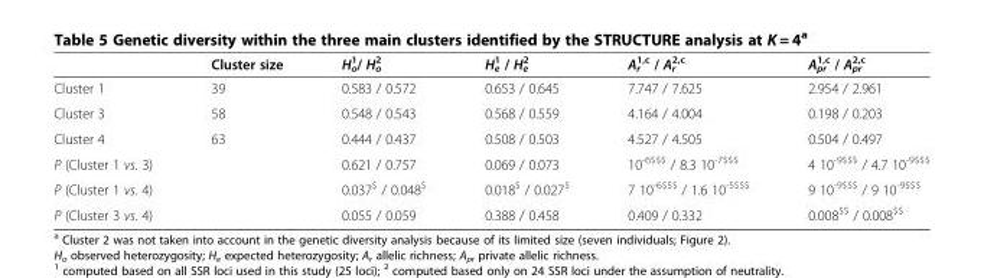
<table><thead><tr><td></td><td>Cluster size</td><td>H<sub>o</sub> <sup>1</sup>/ H<sub>o</sub> <sup>2</sup></td><td>H<sub>e</sub> <sup>1</sup> / H<sub>e</sub> <sup>2</sup></td><td>A<sub>r</sub> <sup>1,c</sup> / A<sub>r</sub> <sup>2,c</sup></td><td>A<sub>pr</sub> <sup>1,c</sup> / A<sub>pr</sub> <sup>2,c</sup></td></tr></thead><tbody><tr><td>Cluster 1</td><td>39</td><td>0.583 / 0.572</td><td>0.653 / 0.645</td><td>7.747 / 7.625</td><td>2.954 / 2.961</td></tr><tr><td>Cluster 3</td><td>58</td><td>0.548 / 0.543</td><td>0.568 / 0.559</td><td>4.164 / 4.004</td><td>0.198 / 0.203</td></tr><tr><td>Cluster 4</td><td>63</td><td>0.444 / 0.437</td><td>0.508 / 0.503</td><td>4.527 / 4.505</td><td>0.504 / 0.497</td></tr><tr><td>P (Cluster 1 vs. 3)</td><td></td><td>0.621 / 0.757</td><td>0.069 / 0.073</td><td>10<sup>-6$$$</sup> / 8.3 10<sup>-7$$$</sup></td><td>4 10<sup>-9$$$</sup> / 4.7 10<sup>-9$$$</sup></td></tr><tr><td>P (Cluster 1 vs. 4)</td><td></td><td>0.037<sup>$</sup> / 0.048<sup>$</sup></td><td>0.018<sup>$</sup> / 0.027<sup>$</sup></td><td>7 10<sup>-6$$$</sup> / 1.6 10<sup>-5$$$</sup></td><td>9 10<sup>-9$$$</sup> / 9 10<sup>-9$$$</sup></td></tr><tr><td>P (Cluster 3 vs. 4)</td><td></td><td>0.055 / 0.059</td><td>0.388 / 0.458</td><td>0.409 / 0.332</td><td>0.008<sup>$$</sup> / 0.008<sup>$$</sup></td></tr></tbody></table>